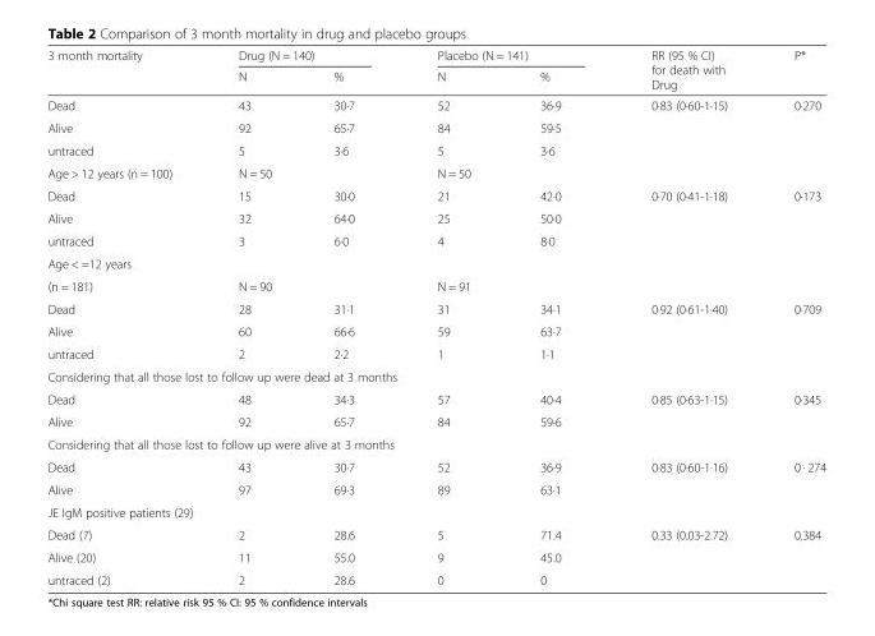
<table><thead><tr><td rowspan="2">3 month mortality</td><td colspan="2">Drug (N = 140)</td><td colspan="2">Placebo (N = 141)</td><td rowspan="2">RR (95 % CI) for death with Drug</td><td rowspan="2">P*</td></tr><tr><td>N</td><td>%</td><td>N</td><td>%</td></tr></thead><tbody><tr><td>Dead</td><td>43</td><td>30·7</td><td>52</td><td>36·9</td><td rowspan="2">0·83 (0·60-1·15)</td><td rowspan="2">0·270</td></tr><tr><td>Alive</td><td>92</td><td>65·7</td><td>84</td><td>59·5</td></tr><tr><td>untraced</td><td>5</td><td>3·6</td><td>5</td><td>3·6</td><td></td><td></td></tr><tr><td>Age &gt; 12 years (n = 100)</td><td colspan="2">N = 50</td><td colspan="2">N = 50</td><td colspan="2"></td></tr><tr><td>Dead</td><td>15</td><td>30·0</td><td>21</td><td>42·0</td><td rowspan="3">0·70 (0·41-1·18)</td><td rowspan="3">0·173</td></tr><tr><td>Alive</td><td>32</td><td>64·0</td><td>25</td><td>50·0</td></tr><tr><td>untraced</td><td>3</td><td>6·0</td><td>4</td><td>8·0</td></tr><tr><td colspan="7">Age &lt; =12 years</td></tr><tr><td>(n = 181)</td><td colspan="2">N = 90</td><td colspan="2">N = 91</td><td></td><td></td></tr><tr><td>Dead</td><td>28</td><td>31·1</td><td>31</td><td>34·1</td><td>0·92 (0·61-1·40)</td><td>0·709</td></tr><tr><td>Alive</td><td>60</td><td>66·6</td><td>59</td><td>63·7</td><td></td><td></td></tr><tr><td>untraced</td><td>2</td><td>2·2</td><td>1</td><td>1·1</td><td></td><td></td></tr><tr><td colspan="7">Considering that all those lost to follow up were dead at 3 months</td></tr><tr><td>Dead</td><td>48</td><td>34·3</td><td>57</td><td>40·4</td><td>0·85 (0·63-1·15)</td><td>0·345</td></tr><tr><td>Alive</td><td>92</td><td>65·7</td><td>84</td><td>59·6</td><td></td><td></td></tr><tr><td colspan="7">Considering that all those lost to follow up were alive at 3 months</td></tr><tr><td>Dead</td><td>43</td><td>30·7</td><td>52</td><td>36·9</td><td rowspan="2">0·83 (0·60-1·16)</td><td rowspan="2">0 · 274</td></tr><tr><td>Alive</td><td>97</td><td>69·3</td><td>89</td><td>63·1</td></tr><tr><td colspan="7">JE IgM positive patients (29)</td></tr><tr><td>Dead (7)</td><td>2</td><td>28.6</td><td>5</td><td>71.4</td><td>0.33 (0.03-2.72)</td><td>0.384</td></tr><tr><td>Alive (20)</td><td>11</td><td>55.0</td><td>9</td><td>45.0</td><td></td><td></td></tr><tr><td>untraced (2)</td><td>2</td><td>28.6</td><td>0</td><td>0</td><td></td><td></td></tr></tbody></table>